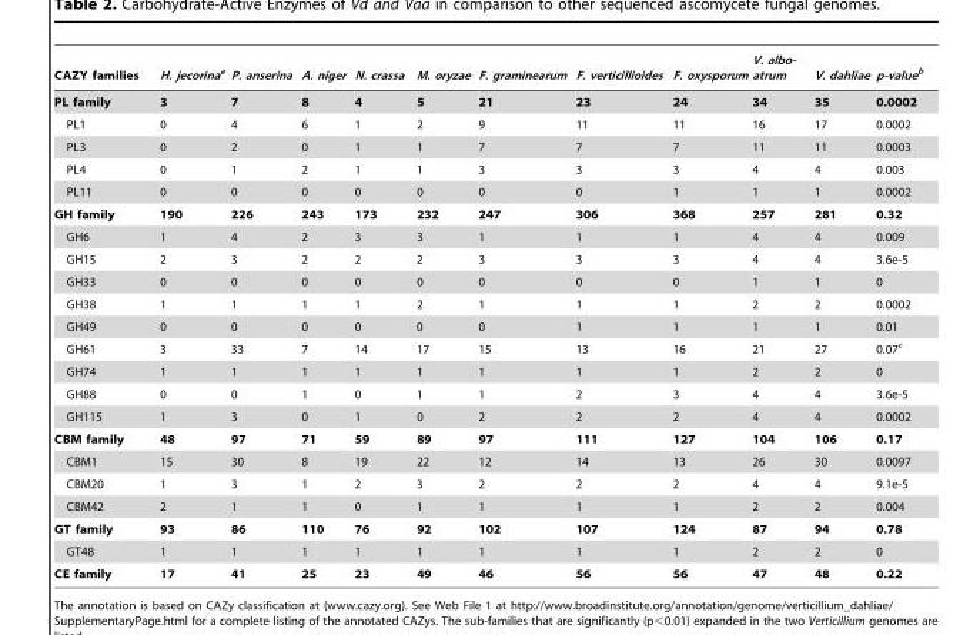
<table><thead><tr><td>CAZY families</td><td>H. jecorinaa</td><td>P. anserina</td><td>A. niger</td><td>N. crassa</td><td>M. oryzae</td><td>F. graminearum</td><td>F. verticillioides</td><td>F. oxysporum</td><td>V. albo- atrum</td><td>V. dahliae</td><td>p-valueb</td></tr></thead><tbody><tr><td>PL family</td><td>3</td><td>7</td><td>8</td><td>4</td><td>5</td><td>21</td><td>23</td><td>24</td><td>34</td><td>35</td><td>0.0002</td></tr><tr><td>PL1</td><td>0</td><td>4</td><td>6</td><td>1</td><td>2</td><td>9</td><td>11</td><td>11</td><td>16</td><td>17</td><td>0.0002</td></tr><tr><td>PL3</td><td>0</td><td>2</td><td>0</td><td>1</td><td>1</td><td>7</td><td>7</td><td>7</td><td>11</td><td>11</td><td>0.0003</td></tr><tr><td>PL4</td><td>0</td><td>1</td><td>2</td><td>1</td><td>1</td><td>3</td><td>3</td><td>3</td><td>4</td><td>4</td><td>0.003</td></tr><tr><td>PL11</td><td>0</td><td>0</td><td>0</td><td>0</td><td>0</td><td>0</td><td>0</td><td>1</td><td>1</td><td>1</td><td>0.0002</td></tr><tr><td>GH family</td><td>190</td><td>226</td><td>243</td><td>173</td><td>232</td><td>247</td><td>306</td><td>368</td><td>257</td><td>281</td><td>0.32</td></tr><tr><td>GH6</td><td>1</td><td>4</td><td>2</td><td>3</td><td>3</td><td>1</td><td>1</td><td>1</td><td>4</td><td>4</td><td>0.009</td></tr><tr><td>GH15</td><td>2</td><td>3</td><td>2</td><td>2</td><td>2</td><td>3</td><td>3</td><td>3</td><td>4</td><td>4</td><td>3.6e-5</td></tr><tr><td>GH33</td><td>0</td><td>0</td><td>0</td><td>0</td><td>0</td><td>0</td><td>0</td><td>0</td><td>1</td><td>1</td><td>0</td></tr><tr><td>GH38</td><td>1</td><td>1</td><td>1</td><td>1</td><td>2</td><td>1</td><td>1</td><td>1</td><td>2</td><td>2</td><td>0.0002</td></tr><tr><td>GH49</td><td>0</td><td>0</td><td>0</td><td>0</td><td>0</td><td>0</td><td>1</td><td>1</td><td>1</td><td>1</td><td>0.01</td></tr><tr><td>GH61</td><td>3</td><td>33</td><td>7</td><td>14</td><td>17</td><td>15</td><td>13</td><td>16</td><td>21</td><td>27</td><td>0.07<sup>c</sup></td></tr><tr><td>GH74</td><td>1</td><td>1</td><td>1</td><td>1</td><td>1</td><td>1</td><td>1</td><td>1</td><td>2</td><td>2</td><td>0</td></tr><tr><td>GH88</td><td>0</td><td>0</td><td>1</td><td>0</td><td>1</td><td>1</td><td>2</td><td>3</td><td>4</td><td>4</td><td>3.6e-5</td></tr><tr><td>GH115</td><td>1</td><td>3</td><td>0</td><td>1</td><td>0</td><td>2</td><td>2</td><td>2</td><td>4</td><td>4</td><td>0.0002</td></tr><tr><td>CBM family</td><td>48</td><td>97</td><td>71</td><td>59</td><td>89</td><td>97</td><td>111</td><td>127</td><td>104</td><td>106</td><td>0.17</td></tr><tr><td>CBM1</td><td>15</td><td>30</td><td>8</td><td>19</td><td>22</td><td>12</td><td>14</td><td>13</td><td>26</td><td>30</td><td>0.0097</td></tr><tr><td>CBM20</td><td>1</td><td>3</td><td>1</td><td>2</td><td>3</td><td>2</td><td>2</td><td>2</td><td>4</td><td>4</td><td>9.1e-5</td></tr><tr><td>CBM42</td><td>2</td><td>1</td><td>1</td><td>0</td><td>1</td><td>1</td><td>1</td><td>1</td><td>2</td><td>2</td><td>0.004</td></tr><tr><td>GT family</td><td>93</td><td>86</td><td>110</td><td>76</td><td>92</td><td>102</td><td>107</td><td>124</td><td>87</td><td>94</td><td>0.78</td></tr><tr><td>GT48</td><td>1</td><td>1</td><td>1</td><td>1</td><td>1</td><td>1</td><td>1</td><td>1</td><td>2</td><td>2</td><td>0</td></tr><tr><td>CE family</td><td>17</td><td>41</td><td>25</td><td>23</td><td>49</td><td>46</td><td>56</td><td>56</td><td>47</td><td>48</td><td>0.22</td></tr></tbody></table>